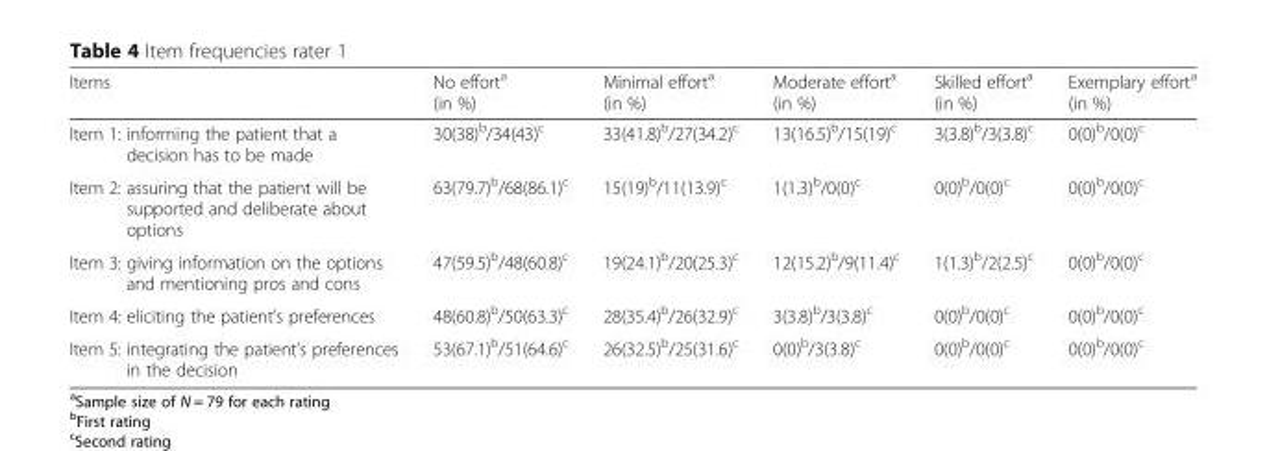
<table><thead><tr><td>Items</td><td>No effort<sup>a</sup> (in %)</td><td>Minimal effort<sup>a</sup> (in %)</td><td>Moderate effort<sup>a</sup> (in %)</td><td>Skilled effort<sup>a</sup> (in %)</td><td>Exemplary effort<sup>a</sup> (in %)</td></tr></thead><tbody><tr><td>Item 1: informing the patient that a decision has to be made</td><td>30(38)<sup>b</sup>/34(43)<sup>c</sup></td><td>33(41.8)<sup>b</sup>/27(34.2)<sup>c</sup></td><td>13(16.5)<sup>b</sup>/15(19)<sup>c</sup></td><td>3(3.8)<sup>b</sup>/3(3.8)<sup>c</sup></td><td>0(0)<sup>b</sup>/0(0)<sup>c</sup></td></tr><tr><td>Item 2: assuring that the patient will be supported and deliberate about options</td><td>63(79.7)<sup>b</sup>/68(86.1)<sup>c</sup></td><td>15(19)<sup>b</sup>/11(13.9)<sup>c</sup></td><td>1(1.3)<sup>b</sup>/0(0)<sup>c</sup></td><td>0(0)<sup>b</sup>/0(0)<sup>c</sup></td><td>0(0)<sup>b</sup>/0(0)<sup>c</sup></td></tr><tr><td>Item 3: giving information on the options and mentioning pros and cons</td><td>47(59.5)<sup>b</sup>/48(60.8)<sup>c</sup></td><td>19(24.1)<sup>b</sup>/20(25.3)<sup>c</sup></td><td>12(15.2)<sup>b</sup>/9(11.4)<sup>c</sup></td><td>1(1.3)<sup>b</sup>/2(2.5)<sup>c</sup></td><td>0(0)<sup>b</sup>/0(0)<sup>c</sup></td></tr><tr><td>Item 4: eliciting the patient’s preferences</td><td>48(60.8)<sup>b</sup>/50(63.3)<sup>c</sup></td><td>28(35.4)<sup>b</sup>/26(32.9)<sup>c</sup></td><td>3(3.8)<sup>b</sup>/3(3.8)<sup>c</sup></td><td>0(0)<sup>b</sup>/0(0)<sup>c</sup></td><td>0(0)<sup>b</sup>/0(0)<sup>c</sup></td></tr><tr><td>Item 5: integrating the patient’s preferences in the decision</td><td>53(67.1)<sup>b</sup>/51(64.6)<sup>c</sup></td><td>26(32.5)<sup>b</sup>/25(31.6)<sup>c</sup></td><td>0(0)<sup>b</sup>/3(3.8)<sup>c</sup></td><td>0(0)<sup>b</sup>/0(0)<sup>c</sup></td><td>0(0)<sup>b</sup>/0(0)<sup>c</sup></td></tr></tbody></table>